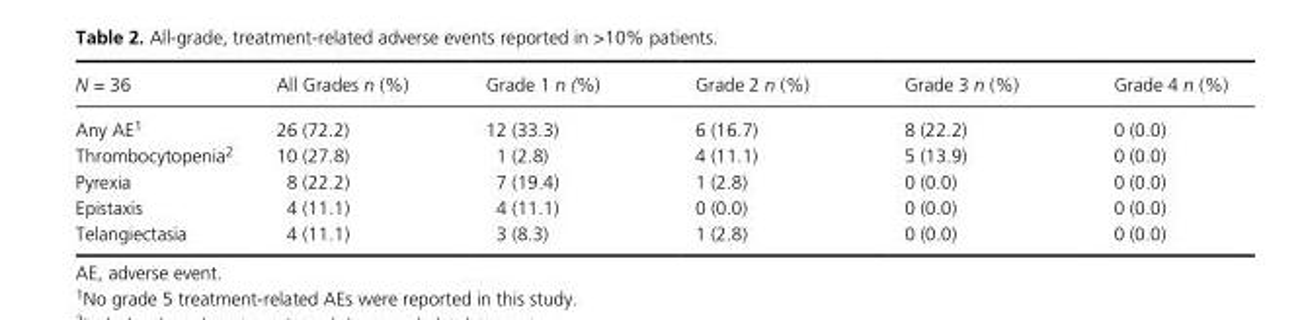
<table><thead><tr><td>N = 36</td><td>All Grades n (%)</td><td>Grade 1 n (%)</td><td>Grade 2 n (%)</td><td>Grade 3 n (%)</td><td>Grade 4 n (%)</td></tr></thead><tbody><tr><td>Any AE1</td><td>26 (72.2)</td><td>12 (33.3)</td><td>6 (16.7)</td><td>8 (22.2)</td><td>0 (0.0)</td></tr><tr><td>Thrombocytopenia2</td><td>10 (27.8)</td><td>1 (2.8)</td><td>4 (11.1)</td><td>5 (13.9)</td><td>0 (0.0)</td></tr><tr><td>Pyrexia</td><td>8 (22.2)</td><td>7 (19.4)</td><td>1 (2.8)</td><td>0 (0.0)</td><td>0 (0.0)</td></tr><tr><td>Epistaxis</td><td>4 (11.1)</td><td>4 (11.1)</td><td>0 (0.0)</td><td>0 (0.0)</td><td>0 (0.0)</td></tr><tr><td>Telangiectasia</td><td>4 (11.1)</td><td>3 (8.3)</td><td>1 (2.8)</td><td>0 (0.0)</td><td>0 (0.0)</td></tr></tbody></table>